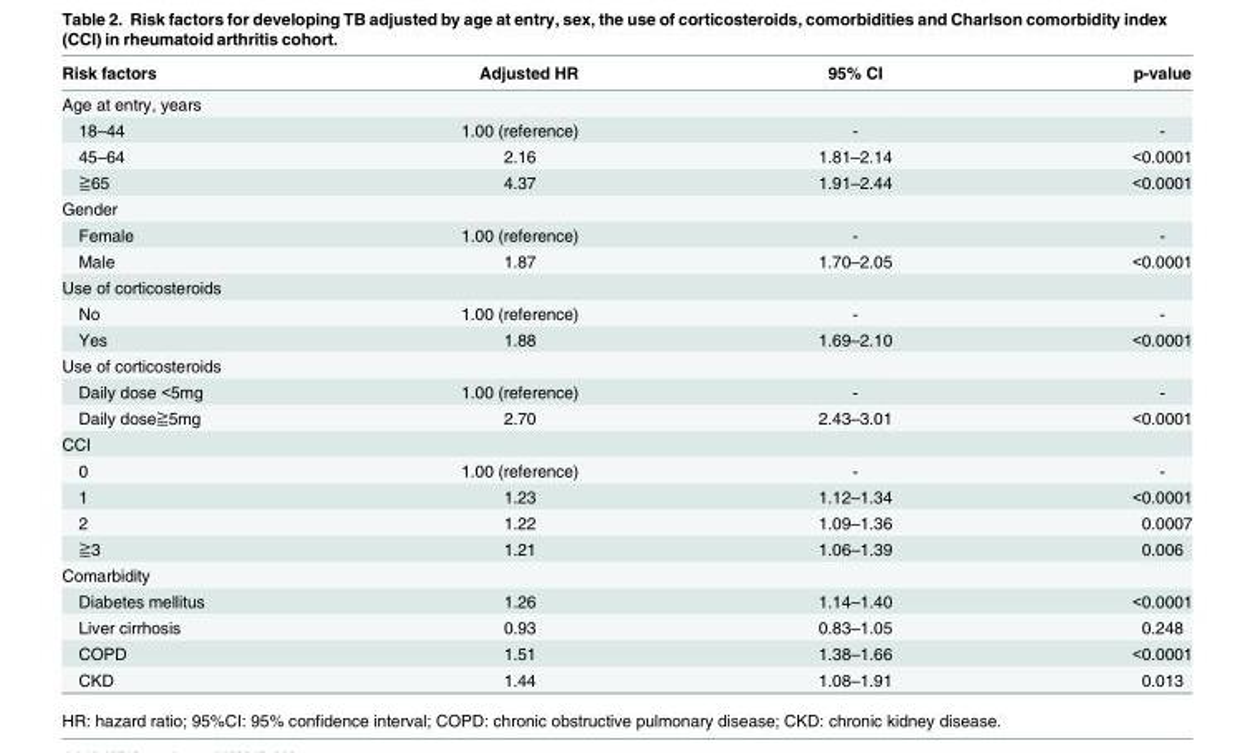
<table><thead><tr><td>Risk factors</td><td>Adjusted HR</td><td>95% CI</td><td>p-value</td></tr></thead><tbody><tr><td colspan="4">Age at entry, years</td></tr><tr><td>18–44</td><td>1.00 (reference)</td><td>-</td><td>-</td></tr><tr><td>45–64</td><td>2.16</td><td>1.81–2.14</td><td>&lt;0.0001</td></tr><tr><td>≧65</td><td>4.37</td><td>1.91–2.44</td><td>&lt;0.0001</td></tr><tr><td colspan="4">Gender</td></tr><tr><td>Female</td><td>1.00 (reference)</td><td>-</td><td>-</td></tr><tr><td>Male</td><td>1.87</td><td>1.70–2.05</td><td>&lt;0.0001</td></tr><tr><td colspan="4">Use of corticosteroids</td></tr><tr><td>No</td><td>1.00 (reference)</td><td>-</td><td>-</td></tr><tr><td>Yes</td><td>1.88</td><td>1.69–2.10</td><td>&lt;0.0001</td></tr><tr><td colspan="4">Use of corticosteroids</td></tr><tr><td>Daily dose &lt;5mg</td><td>1.00 (reference)</td><td>-</td><td>-</td></tr><tr><td>Daily dose≧5mg</td><td>2.70</td><td>2.43–3.01</td><td>&lt;0.0001</td></tr><tr><td colspan="4">CCI</td></tr><tr><td>0</td><td>1.00 (reference)</td><td>-</td><td>-</td></tr><tr><td>1</td><td>1.23</td><td>1.12–1.34</td><td>&lt;0.0001</td></tr><tr><td>2</td><td>1.22</td><td>1.09–1.36</td><td>0.0007</td></tr><tr><td>≧3</td><td>1.21</td><td>1.06–1.39</td><td>0.006</td></tr><tr><td colspan="4">Comarbidity</td></tr><tr><td>Diabetes mellitus</td><td>1.26</td><td>1.14–1.40</td><td>&lt;0.0001</td></tr><tr><td>Liver cirrhosis</td><td>0.93</td><td>0.83–1.05</td><td>0.248</td></tr><tr><td>COPD</td><td>1.51</td><td>1.38–1.66</td><td>&lt;0.0001</td></tr><tr><td>CKD</td><td>1.44</td><td>1.08–1.91</td><td>0.013</td></tr></tbody></table>